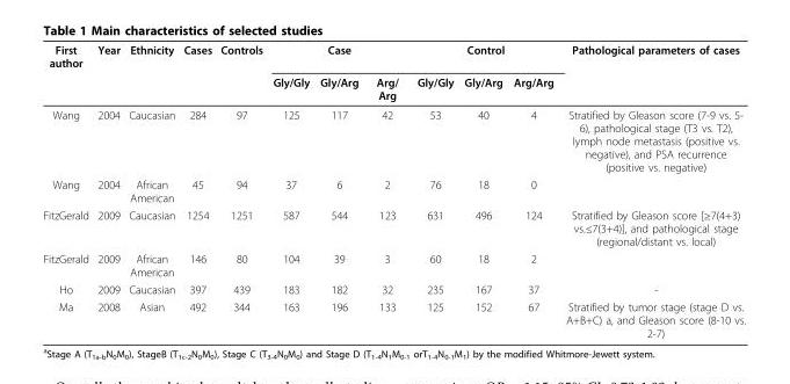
<table><thead><tr><td rowspan="2">First author</td><td rowspan="2">Year</td><td rowspan="2">Ethnicity</td><td rowspan="2">Cases</td><td rowspan="2">Controls</td><td colspan="3">Case</td><td colspan="3">Control</td><td rowspan="2">Pathological parameters of cases</td></tr><tr><td>Gly/Gly</td><td>Gly/Arg</td><td>Arg/ Arg</td><td>Gly/Gly</td><td>Gly/Arg</td><td>Arg/Arg</td></tr></thead><tbody><tr><td>Wang</td><td>2004</td><td>Caucasian</td><td>284</td><td>97</td><td>125</td><td>117</td><td>42</td><td>53</td><td>40</td><td>4</td><td>Stratified by Gleason score (7-9 vs. 5- 6), pathological stage (T3 vs. T2), lymph node metastasis (positive vs. negative), and PSA recurrence (positive vs. negative)</td></tr><tr><td>Wang</td><td>2004</td><td>African American</td><td>45</td><td>94</td><td>37</td><td>6</td><td>2</td><td>76</td><td>18</td><td>0</td><td></td></tr><tr><td>FitzGerald</td><td>2009</td><td>Caucasian</td><td>1254</td><td>1251</td><td>587</td><td>544</td><td>123</td><td>631</td><td>496</td><td>124</td><td>Stratified by Gleason score [≥7(4+3) vs.≤7(3+4)], and pathological stage (regional/distant vs. local)</td></tr><tr><td>FitzGerald</td><td>2009</td><td>African American</td><td>146</td><td>80</td><td>104</td><td>39</td><td>3</td><td>60</td><td>18</td><td>2</td><td></td></tr><tr><td>Ho</td><td>2009</td><td>Caucasian</td><td>397</td><td>439</td><td>183</td><td>182</td><td>32</td><td>235</td><td>167</td><td>37</td><td>-</td></tr><tr><td>Ma</td><td>2008</td><td>Asian</td><td>492</td><td>344</td><td>163</td><td>196</td><td>133</td><td>125</td><td>152</td><td>67</td><td>Stratified by tumor stage (stage D vs. A+B+C) a, and Gleason score (8-10 vs. 2-7)</td></tr></tbody></table>